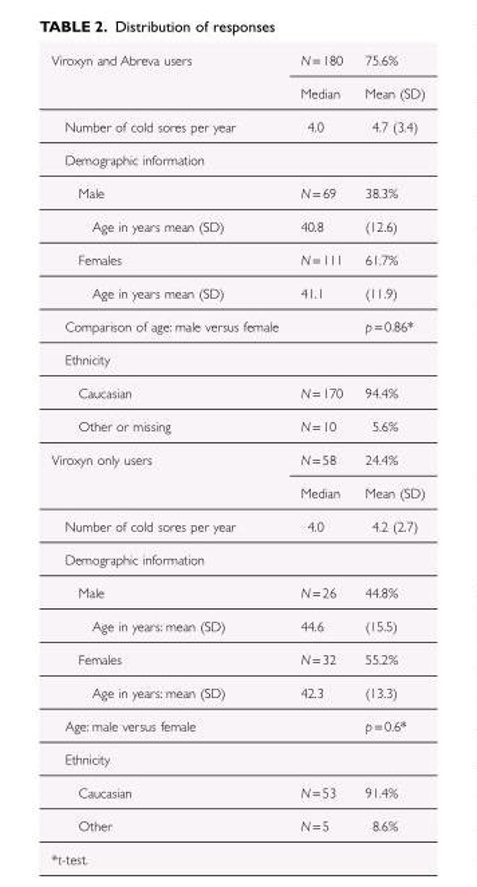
<table><tbody><tr><td rowspan="2">Viroxyn and Abreva users</td><td>N = 180</td><td>75.6%</td></tr><tr><td>Median</td><td>Mean (SD)</td></tr><tr><td>Number of cold sores per year</td><td>4.0</td><td>4.7 (3.4)</td></tr><tr><td colspan="3">Demographic information</td></tr><tr><td>Male</td><td>N = 69</td><td>38.3%</td></tr><tr><td>Age in years mean (SD)</td><td>40.8</td><td>(12.6)</td></tr><tr><td>Females</td><td>N = 111</td><td>61.7%</td></tr><tr><td>Age in years mean (SD)</td><td>41.1</td><td>(11.9)</td></tr><tr><td>Comparison of age: male versus female</td><td></td><td>p = 0.86*</td></tr><tr><td colspan="3">Ethnicity</td></tr><tr><td>Caucasian</td><td>N = 170</td><td>94.4%</td></tr><tr><td>Other or missing</td><td>N = 10</td><td>5.6%</td></tr><tr><td rowspan="2">Viroxyn only users</td><td>N = 58</td><td>24.4%</td></tr><tr><td>Median</td><td>Mean (SD)</td></tr><tr><td>Number of cold sores per year</td><td>4.0</td><td>4.2 (2.7)</td></tr><tr><td colspan="3">Demographic information</td></tr><tr><td>Male</td><td>N = 26</td><td>44.8%</td></tr><tr><td>Age in years: mean (SD)</td><td>44.6</td><td>(15.5)</td></tr><tr><td>Females</td><td>N = 32</td><td>55.2%</td></tr><tr><td>Age in years: mean (SD)</td><td>42.3</td><td>(13.3)</td></tr><tr><td>Age: male versus female</td><td></td><td>p = 0.6*</td></tr><tr><td colspan="3">Ethnicity</td></tr><tr><td>Caucasian</td><td>N = 53</td><td>91.4%</td></tr><tr><td>Other</td><td>N = 5</td><td>8.6%</td></tr></tbody></table>